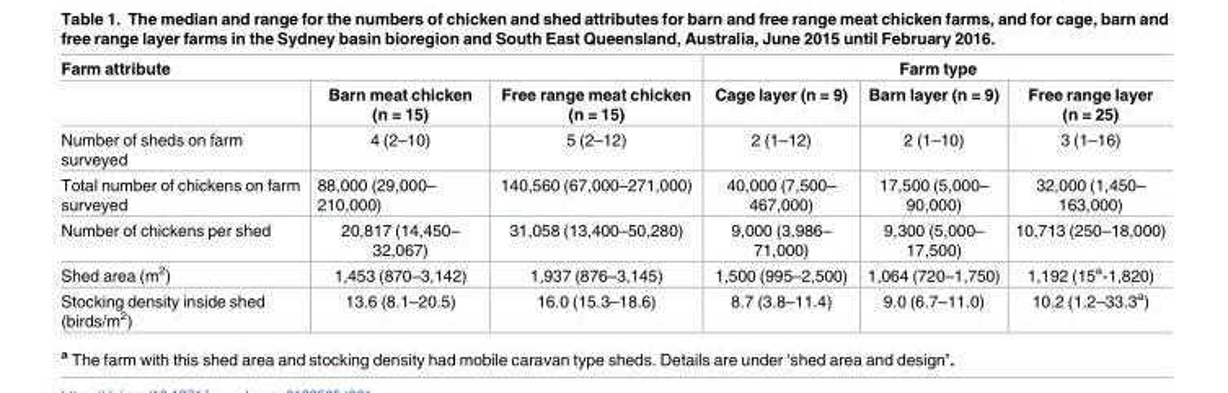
<table><thead><tr><td colspan="3">Farm attribute</td><td colspan="3">Farm type</td></tr><tr><td></td><td>Barn meat chicken (n = 15)</td><td>Free range meat chicken (n = 15)</td><td>Cage layer (n = 9)</td><td>Barn layer (n = 9)</td><td>Free range layer (n = 25)</td></tr></thead><tbody><tr><td>Number of sheds on farm surveyed</td><td>4 (2–10)</td><td>5 (2–12)</td><td>2 (1–12)</td><td>2 (1–10)</td><td>3 (1–16)</td></tr><tr><td>Total number of chickens on farm surveyed</td><td>88,000 (29,000– 210,000)</td><td>140,560 (67,000–271,000)</td><td>40,000 (7,500– 467,000)</td><td>17,500 (5,000– 90,000)</td><td>32,000 (1,450– 163,000)</td></tr><tr><td>Number of chickens per shed</td><td>20,817 (14,450– 32,067)</td><td>31,058 (13,400–50,280)</td><td>9,000 (3,986– 71,000)</td><td>9,300 (5,000– 17,500)</td><td>10,713 (250–18,000)</td></tr><tr><td>Shed area (m<sup>2</sup>)</td><td>1,453 (870–3,142)</td><td>1,937 (876–3,145)</td><td>1,500 (995–2,500)</td><td>1,064 (720–1,750)</td><td>1,192 (15<sup>a</sup>-1,820)</td></tr><tr><td>Stocking density inside shed (birds/m<sup>2</sup>)</td><td>13.6 (8.1–20.5)</td><td>16.0 (15.3–18.6)</td><td>8.7 (3.8–11.4)</td><td>9.0 (6.7–11.0)</td><td>10.2 (1.2–33.3<sup>a</sup>)</td></tr></tbody></table>